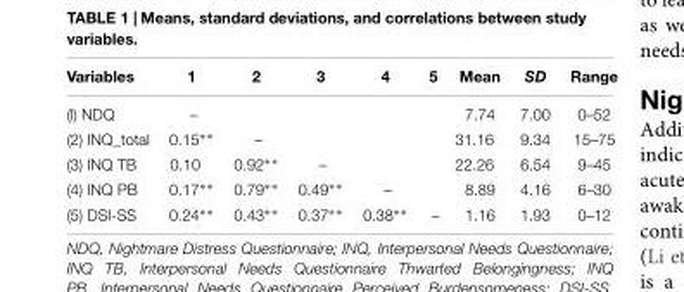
<table><thead><tr><td>Variables</td><td>1</td><td>2</td><td>3</td><td>4</td><td>5</td><td>Mean</td><td>SD</td><td>Range</td></tr></thead><tbody><tr><td>(l) NDQ</td><td>–</td><td></td><td></td><td></td><td></td><td>7.74</td><td>7.00</td><td>0–52</td></tr><tr><td>(2) INQ_total</td><td>0.15∗∗</td><td>–</td><td></td><td></td><td></td><td>31.16</td><td>9.34</td><td>15–75</td></tr><tr><td>(3) INQ TB</td><td>0.10</td><td>0.92∗∗</td><td>–</td><td></td><td></td><td>22.26</td><td>6.54</td><td>9–45</td></tr><tr><td>(4) INQ PB</td><td>0.17∗∗</td><td>0.79∗∗</td><td>0.49∗∗</td><td>–</td><td></td><td>8.89</td><td>4.16</td><td>6–30</td></tr><tr><td>(5) DSI-SS</td><td>0.24∗∗</td><td>0.43∗∗</td><td>0.37∗∗</td><td>0.38∗∗</td><td>–</td><td>1.16</td><td>1.93</td><td>0–12</td></tr></tbody></table>